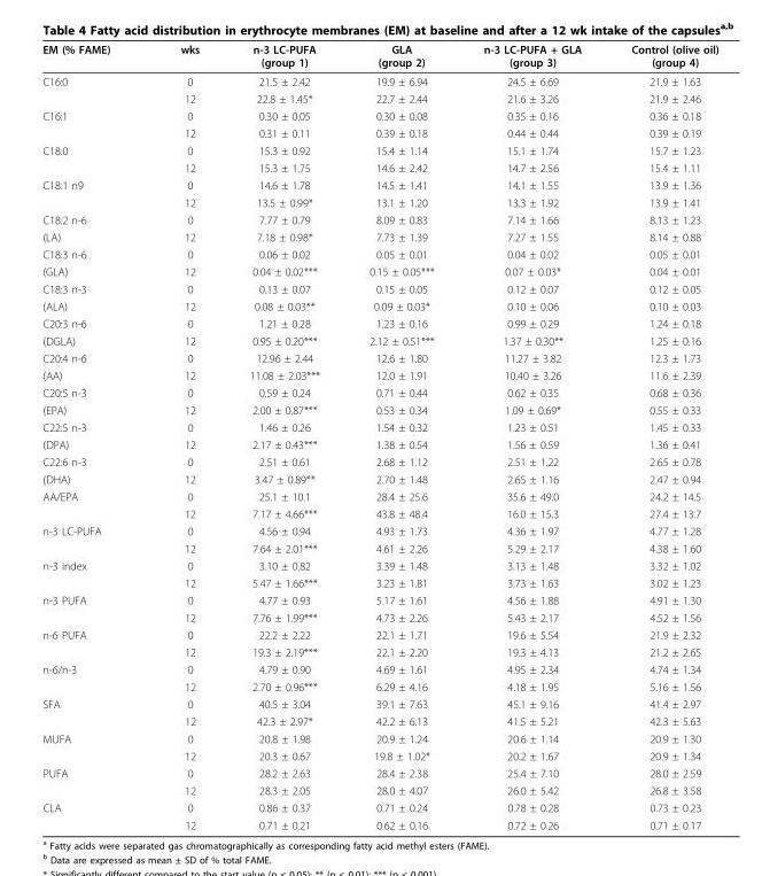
<table><thead><tr><td>EM (% FAME)</td><td>wks</td><td>n-3 LC-PUFA (group 1)</td><td>GLA (group 2)</td><td>n-3 LC-PUFA + GLA (group 3)</td><td>Control (olive oil) (group 4)</td></tr></thead><tbody><tr><td rowspan="2">C16:0</td><td>0</td><td>21.5 ± 2.42</td><td>19.9 ± 6.94</td><td>24.5 ± 6.69</td><td>21.9 ± 1.63</td></tr><tr><td>12</td><td>22.8 ± 1.45*</td><td>22.7 ± 2.44</td><td>21.6 ± 3.26</td><td>21.9 ± 2.46</td></tr><tr><td rowspan="2">C16:1</td><td>0</td><td>0.30 ± 0.05</td><td>0.30 ± 0.08</td><td>0.35 ± 0.16</td><td>0.36 ± 0.18</td></tr><tr><td>12</td><td>0.31 ± 0.11</td><td>0.39 ± 0.18</td><td>0.44 ± 0.44</td><td>0.39 ± 0.19</td></tr><tr><td rowspan="2">C18:0</td><td>0</td><td>15.3 ± 0.92</td><td>15.4 ± 1.14</td><td>15.1 ± 1.74</td><td>15.7 ± 1.23</td></tr><tr><td>12</td><td>15.3 ± 1.75</td><td>14.6 ± 2.42</td><td>14.7 ± 2.56</td><td>15.4 ± 1.11</td></tr><tr><td rowspan="2">C18:1 n9</td><td>0</td><td>14.6 ± 1.78</td><td>14.5 ± 1.41</td><td>14.1 ± 1.55</td><td>13.9 ± 1.36</td></tr><tr><td>12</td><td>13.5 ± 0.99*</td><td>13.1 ± 1.20</td><td>13.3 ± 1.92</td><td>13.9 ± 1.41</td></tr><tr><td>C18:2 n-6</td><td>0</td><td>7.77 ± 0.79</td><td>8.09 ± 0.83</td><td>7.14 ± 1.66</td><td>8.13 ± 1.23</td></tr><tr><td>(LA)</td><td>12</td><td>7.18 ± 0.98*</td><td>7.73 ± 1.39</td><td>7.27 ± 1.55</td><td>8.14 ± 0.88</td></tr><tr><td>C18:3 n-6</td><td>0</td><td>0.06 ± 0.02</td><td>0.05 ± 0.01</td><td>0.04 ± 0.02</td><td>0.05 ± 0.01</td></tr><tr><td>(GLA)</td><td>12</td><td>0.04 ± 0.02***</td><td>0.15 ± 0.05***</td><td>0.07 ± 0.03*</td><td>0.04 ± 0.01</td></tr><tr><td>C18:3 n-3</td><td>0</td><td>0.13 ± 0.07</td><td>0.15 ± 0.05</td><td>0.12 ± 0.07</td><td>0.12 ± 0.05</td></tr><tr><td>(ALA)</td><td>12</td><td>0.08 ± 0.03**</td><td>0.09 ± 0.03*</td><td>0.10 ± 0.06</td><td>0.10 ± 0.03</td></tr><tr><td>C20:3 n-6</td><td>0</td><td>1.21 ± 0.28</td><td>1.23 ± 0.16</td><td>0.99 ± 0.29</td><td>1.24 ± 0.18</td></tr><tr><td>(DGLA)</td><td>12</td><td>0.95 ± 0.20***</td><td>2.12 ± 0.51***</td><td>1.37 ± 0.30**</td><td>1.25 ± 0.16</td></tr><tr><td>C20:4 n-6</td><td>0</td><td>12.96 ± 2.44</td><td>12.6 ± 1.80</td><td>11.27 ± 3.82</td><td>12.3 ± 1.73</td></tr><tr><td>(AA)</td><td>12</td><td>11.08 ± 2.03***</td><td>12.0 ± 1.91</td><td>10.40 ± 3.26</td><td>11.6 ± 2.39</td></tr><tr><td>C20:5 n-3</td><td>0</td><td>0.59 ± 0.24</td><td>0.71 ± 0.44</td><td>0.62 ± 0.35</td><td>0.68 ± 0.36</td></tr><tr><td>(EPA)</td><td>12</td><td>2.00 ± 0.87***</td><td>0.53 ± 0.34</td><td>1.09 ± 0.69*</td><td>0.55 ± 0.33</td></tr><tr><td>C22:5 n-3</td><td>0</td><td>1.46 ± 0.26</td><td>1.54 ± 0.32</td><td>1.23 ± 0.51</td><td>1.45 ± 0.33</td></tr><tr><td>(DPA)</td><td>12</td><td>2.17 ± 0.43***</td><td>1.38 ± 0.54</td><td>1.56 ± 0.59</td><td>1.36 ± 0.41</td></tr><tr><td>C22:6 n-3</td><td>0</td><td>2.51 ± 0.61</td><td>2.68 ± 1.12</td><td>2.51 ± 1.22</td><td>2.65 ± 0.78</td></tr><tr><td>(DHA)</td><td>12</td><td>3.47 ± 0.89**</td><td>2.70 ± 1.48</td><td>2.65 ± 1.16</td><td>2.47 ± 0.94</td></tr><tr><td rowspan="2">AA/EPA</td><td>0</td><td>25.1 ± 10.1</td><td>28.4 ± 25.6</td><td>35.6 ± 49.0</td><td>24.2 ± 14.5</td></tr><tr><td>12</td><td>7.17 ± 4.66***</td><td>43.8 ± 48.4</td><td>16.0 ± 15.3</td><td>27.4 ± 13.7</td></tr><tr><td rowspan="2">n-3 LC-PUFA</td><td>0</td><td>4.56 ± 0.94</td><td>4.93 ± 1.73</td><td>4.36 ± 1.97</td><td>4.77 ± 1.28</td></tr><tr><td>12</td><td>7.64 ± 2.01***</td><td>4.61 ± 2.26</td><td>5.29 ± 2.17</td><td>4.38 ± 1.60</td></tr><tr><td rowspan="2">n-3 index</td><td>0</td><td>3.10 ± 0.82</td><td>3.39 ± 1.48</td><td>3.13 ± 1.48</td><td>3.32 ± 1.02</td></tr><tr><td>12</td><td>5.47 ± 1.66***</td><td>3.23 ± 1.81</td><td>3.73 ± 1.63</td><td>3.02 ± 1.23</td></tr><tr><td rowspan="2">n-3 PUFA</td><td>0</td><td>4.77 ± 0.93</td><td>5.17 ± 1.61</td><td>4.56 ± 1.88</td><td>4.91 ± 1.30</td></tr><tr><td>12</td><td>7.76 ± 1.99***</td><td>4.73 ± 2.26</td><td>5.43 ± 2.17</td><td>4.52 ± 1.56</td></tr><tr><td rowspan="2">n-6 PUFA</td><td>0</td><td>22.2 ± 2.22</td><td>22.1 ± 1.71</td><td>19.6 ± 5.54</td><td>21.9 ± 2.32</td></tr><tr><td>12</td><td>19.3 ± 2.19***</td><td>22.1 ± 2.20</td><td>19.3 ± 4.13</td><td>21.2 ± 2.65</td></tr><tr><td rowspan="2">n-6/n-3</td><td>0</td><td>4.79 ± 0.90</td><td>4.69 ± 1.61</td><td>4.95 ± 2.34</td><td>4.74 ± 1.34</td></tr><tr><td>12</td><td>2.70 ± 0.96***</td><td>6.29 ± 4.16</td><td>4.18 ± 1.95</td><td>5.16 ± 1.56</td></tr><tr><td rowspan="2">SFA</td><td>0</td><td>40.5 ± 3.04</td><td>39.1 ± 7.63</td><td>45.1 ± 9.16</td><td>41.4 ± 2.97</td></tr><tr><td>12</td><td>42.3 ± 2.97*</td><td>42.2 ± 6.13</td><td>41.5 ± 5.21</td><td>42.3 ± 5.63</td></tr><tr><td rowspan="2">MUFA</td><td>0</td><td>20.8 ± 1.98</td><td>20.9 ± 1.24</td><td>20.6 ± 1.14</td><td>20.9 ± 1.30</td></tr><tr><td>12</td><td>20.3 ± 0.67</td><td>19.8 ± 1.02*</td><td>20.2 ± 1.67</td><td>20.9 ± 1.34</td></tr><tr><td rowspan="2">PUFA</td><td>0</td><td>28.2 ± 2.63</td><td>28.4 ± 2.38</td><td>25.4 ± 7.10</td><td>28.0 ± 2.59</td></tr><tr><td>12</td><td>28.3 ± 2.05</td><td>28.0 ± 4.07</td><td>26.0 ± 5.42</td><td>26.8 ± 3.58</td></tr><tr><td rowspan="2">CLA</td><td>0</td><td>0.86 ± 0.37</td><td>0.71 ± 0.24</td><td>0.78 ± 0.28</td><td>0.73 ± 0.23</td></tr><tr><td>12</td><td>0.71 ± 0.21</td><td>0.62 ± 0.16</td><td>0.72 ± 0.26</td><td>0.71 ± 0.17</td></tr></tbody></table>